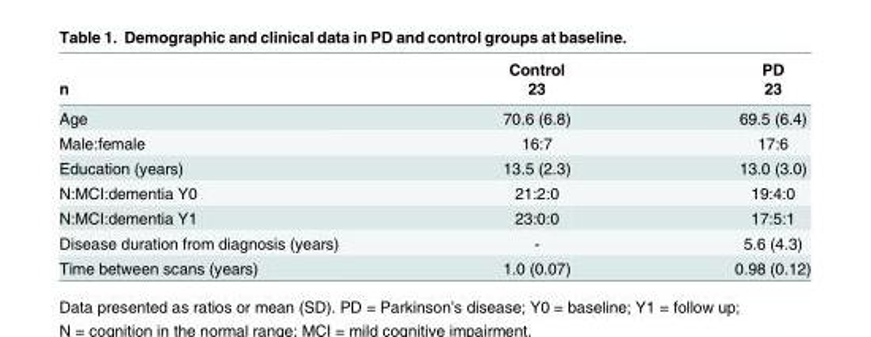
<table><thead><tr><td rowspan="2">n</td><td rowspan="2">Control 23</td><td rowspan="2">PD 23</td></tr><tr></tr></thead><tbody><tr><td>Age</td><td>70.6 (6.8)</td><td>69.5 (6.4)</td></tr><tr><td>Male:female</td><td>16:7</td><td>17:6</td></tr><tr><td>Education (years)</td><td>13.5 (2.3)</td><td>13.0 (3.0)</td></tr><tr><td>N:MCI:dementia Y0</td><td>21:2:0</td><td>19:4:0</td></tr><tr><td>N:MCI:dementia Y1</td><td>23:0:0</td><td>17:5:1</td></tr><tr><td>Disease duration from diagnosis (years)</td><td>-</td><td>5.6 (4.3)</td></tr><tr><td>Time between scans (years)</td><td>1.0 (0.07)</td><td>0.98 (0.12)</td></tr></tbody></table>